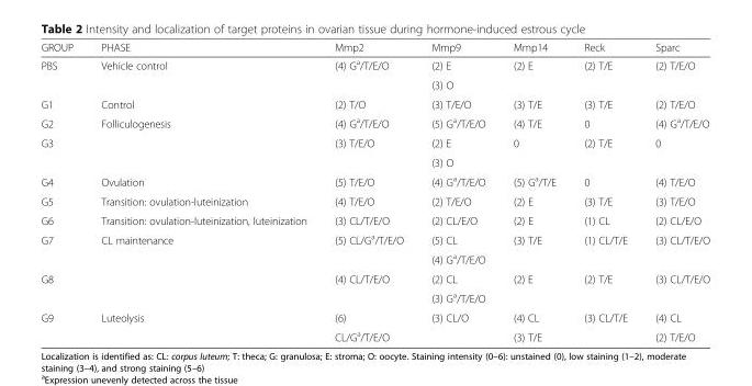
<table><thead><tr><td>GROUP</td><td>PHASE</td><td>Mmp2</td><td>Mmp9</td><td>Mmp14</td><td>Reck</td><td>Sparc</td></tr></thead><tbody><tr><td rowspan="2">PBS</td><td rowspan="2">Vehicle control</td><td rowspan="2">(4) G<sup>a</sup>/T/E/O</td><td>(2) E</td><td rowspan="2">(2) E</td><td rowspan="2">(2) T/E</td><td rowspan="2">(2) T/E/O</td></tr><tr><td>(3) O</td></tr><tr><td>G1</td><td>Control</td><td>(2) T/O</td><td>(3) T/E/O</td><td>(3) T/E</td><td>(3) T/E</td><td>(2) T/E/O</td></tr><tr><td>G2</td><td rowspan="3">Folliculogenesis</td><td>(4) G<sup>a</sup>/T/E/O</td><td>(5) G<sup>a</sup>/T/E/O</td><td>(4) T/E</td><td>0</td><td>(4) G<sup>a</sup>/T/E/O</td></tr><tr><td rowspan="2">G3</td><td rowspan="2">(3) T/E/O</td><td>(2) E</td><td rowspan="2">0</td><td rowspan="2">(2) T/E</td><td rowspan="2">0</td></tr><tr><td>(3) O</td></tr><tr><td>G4</td><td>Ovulation</td><td>(5) T/E/O</td><td>(4) G<sup>a</sup>/T/E/O</td><td>(5) G<sup>a</sup>/T/E</td><td>0</td><td>(4) T/E/O</td></tr><tr><td>G5</td><td>Transition: ovulation-luteinization</td><td>(4) T/E/O</td><td>(2) T/E/O</td><td>(2) E</td><td>(3) T/E</td><td>(3) T/E/O</td></tr><tr><td>G6</td><td>Transition: ovulation-luteinization, luteinization</td><td>(3) CL/T/E/O</td><td>(2) CL/E/O</td><td>(2) E</td><td>(1) CL</td><td>(2) CL/E/O</td></tr><tr><td rowspan="2">G7</td><td rowspan="4">CL maintenance</td><td rowspan="2">(5) CL/G<sup>a</sup>/T/E/O</td><td>(5) CL</td><td rowspan="2">(3) T/E</td><td rowspan="2">(1) CL/T/E</td><td rowspan="2">(3) CL/T/E/O</td></tr><tr><td>(4) G<sup>a</sup>/T/E/O</td></tr><tr><td rowspan="2">G8</td><td rowspan="2">(4) CL/T/E/O</td><td>(2) CL</td><td rowspan="2">(2) E</td><td rowspan="2">(2) T/E</td><td rowspan="2">(3) CL/T/E/O</td></tr><tr><td>(3) G<sup>a</sup>/T/E/O</td></tr><tr><td rowspan="2">G9</td><td rowspan="2">Luteolysis</td><td>(6)</td><td rowspan="2">(3) CL/O</td><td>(4) CL</td><td rowspan="2">(3) CL/T/E</td><td>(4) CL</td></tr><tr><td>CL/G<sup>a</sup>/T/E/O</td><td>(3) T/E</td><td>(2) T/E/O</td></tr></tbody></table>